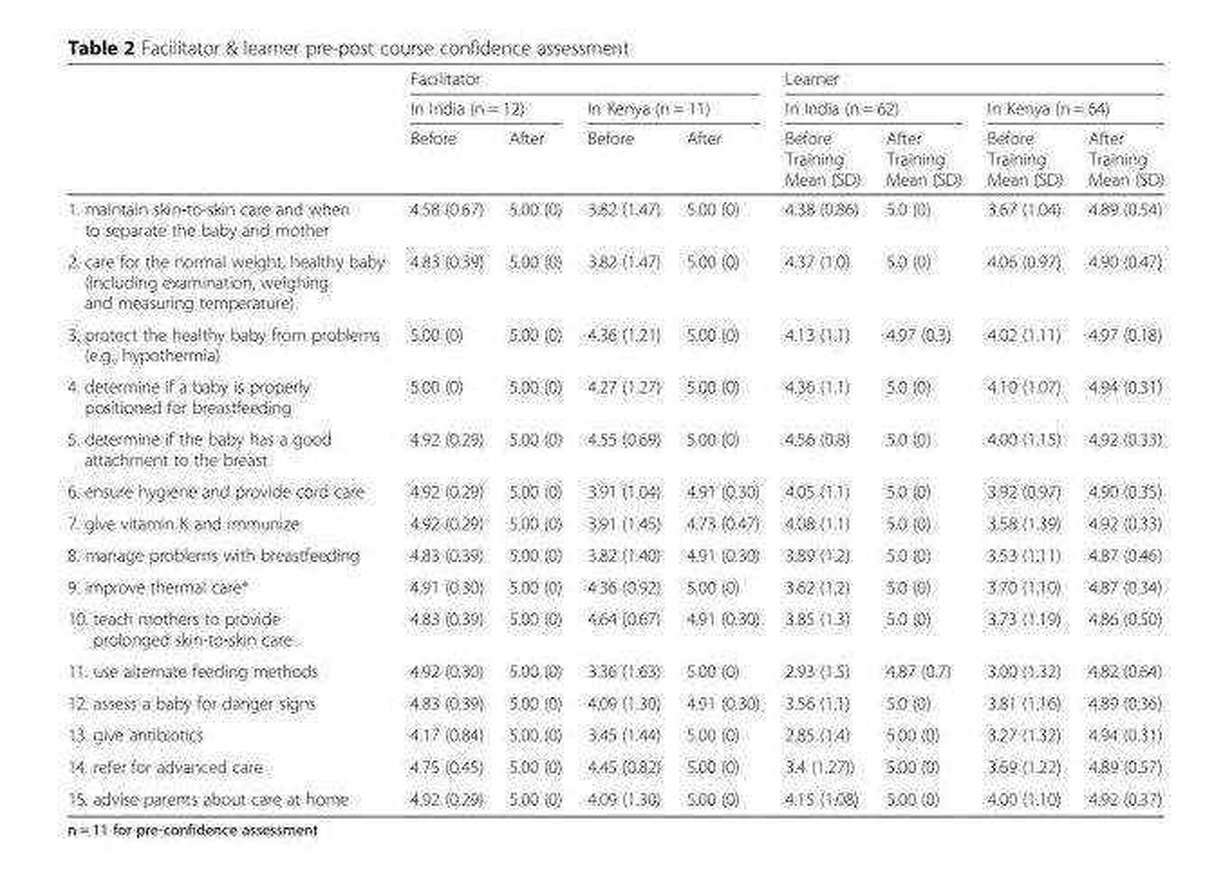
<table><thead><tr><td rowspan="3"></td><td colspan="4">Facilitator</td><td colspan="4">Learner</td></tr><tr><td colspan="2">In India (n = 12)</td><td colspan="2">In Kenya (n = 11)</td><td colspan="2">In India (n = 62)</td><td colspan="2">In Kenya (n = 64)</td></tr><tr><td>Before</td><td>After</td><td>Before</td><td>After</td><td>Before Training Mean (SD)</td><td>After Training Mean (SD)</td><td>Before Training Mean (SD)</td><td>After Training Mean (SD)</td></tr></thead><tbody><tr><td>1. maintain skin-to-skin care and when to separate the baby and mother</td><td>4.58 (0.67)</td><td>5.00 (0)</td><td>3.82 (1.47)</td><td>5.00 (0)</td><td>4.38 (0.86)</td><td>5.0 (0)</td><td>3.67 (1.04)</td><td>4.89 (0.54)</td></tr><tr><td>2. care for the normal weight, healthy baby (including examination, weighing and measuring temperature)</td><td>4.83 (0.39)</td><td>5.00 (0)</td><td>3.82 (1.47)</td><td>5.00 (0)</td><td>4.37 (1.0)</td><td>5.0 (0)</td><td>4.06 (0.97)</td><td>4.90 (0.47)</td></tr><tr><td>3. protect the healthy baby from problems (e.g., hypothermia)</td><td>5.00 (0)</td><td>5.00 (0)</td><td>4.36 (1.21)</td><td>5.00 (0)</td><td>4.13 (1.1)</td><td>4.97 (0.3)</td><td>4.02 (1.11)</td><td>4.97 (0.18)</td></tr><tr><td>4. determine if a baby is properly positioned for breastfeeding</td><td>5.00 (0)</td><td>5.00 (0)</td><td>4.27 (1.27)</td><td>5.00 (0)</td><td>4.36 (1.1)</td><td>5.0 (0)</td><td>4.10 (1.07)</td><td>4.94 (0.31)</td></tr><tr><td>5. determine if the baby has a good attachment to the breast</td><td>4.92 (0.29)</td><td>5.00 (0)</td><td>4.55 (0.69)</td><td>5.00 (0)</td><td>4.56 (0.8)</td><td>5.0 (0)</td><td>4.00 (1.15)</td><td>4.92 (0.33)</td></tr><tr><td>6. ensure hygiene and provide cord care</td><td>4.92 (0.29)</td><td>5.00 (0)</td><td>3.91 (1.04)</td><td>4.91 (0.30)</td><td>4.05 (1.1)</td><td>5.0 (0)</td><td>3.92 (0.97)</td><td>4.90 (0.35)</td></tr><tr><td>7. give vitamin K and immunize</td><td>4.92 (0.29)</td><td>5.00 (0)</td><td>3.91 (1.45)</td><td>4.73 (0.47)</td><td>4.08 (1.1)</td><td>5.0 (0)</td><td>3.58 (1.39)</td><td>4.92 (0.33)</td></tr><tr><td>8. manage problems with breastfeeding</td><td>4.83 (0.39)</td><td>5.00 (0)</td><td>3.82 (1.40)</td><td>4.91 (0.30)</td><td>3.89 (1.2)</td><td>5.0 (0)</td><td>3.53 (1.11)</td><td>4.87 (0.46)</td></tr><tr><td>9. improve thermal care*</td><td>4.91 (0.30)</td><td>5.00 (0)</td><td>4.36 (0.92)</td><td>5.00 (0)</td><td>3.62 (1.2)</td><td>5.0 (0)</td><td>3.70 (1.10)</td><td>4.87 (0.34)</td></tr><tr><td>10. teach mothers to provide prolonged skin-to‐skin care</td><td>4.83 (0.39)</td><td>5.00 (0)</td><td>4.64 (0.67)</td><td>4.91 (0.30)</td><td>3.85 (1.3)</td><td>5.0 (0)</td><td>3.73 (1.19)</td><td>4.86 (0.50)</td></tr><tr><td>11. use alternate feeding methods</td><td>4.92 (0.30)</td><td>5.00 (0)</td><td>3.36 (1.63)</td><td>5.00 (0)</td><td>2.93 (1.5)</td><td>4.87 (0.7)</td><td>3.00 (1.32)</td><td>4.82 (0.64)</td></tr><tr><td>12. assess a baby for danger signs</td><td>4.83 (0.39)</td><td>5.00 (0)</td><td>4.09 (1.30)</td><td>4.91 (0.30)</td><td>3.56 (1.1)</td><td>5.0 (0)</td><td>3.81 (1.16)</td><td>4.89 (0.36)</td></tr><tr><td>13. give antibiotics</td><td>4.17 (0.84)</td><td>5.00 (0)</td><td>3.45 (1.44)</td><td>5.00 (0)</td><td>2.85 (1.4)</td><td>5.00 (0)</td><td>3.27 (1.32)</td><td>4.94 (0.31)</td></tr><tr><td>14. refer for advanced care</td><td>4.75 (0.45)</td><td>5.00 (0)</td><td>4.45 (0.82)</td><td>5.00 (0)</td><td>3.4 (1.27))</td><td>5.00 (0)</td><td>3.69 (1.22)</td><td>4.89 (0.57)</td></tr><tr><td>15. advise parents about care at home</td><td>4.92 (0.29)</td><td>5.00 (0)</td><td>4.09 (1.30)</td><td>5.00 (0)</td><td>4.15 (1.08)</td><td>5.00 (0)</td><td>4.00 (1.10)</td><td>4.92 (0.37)</td></tr></tbody></table>